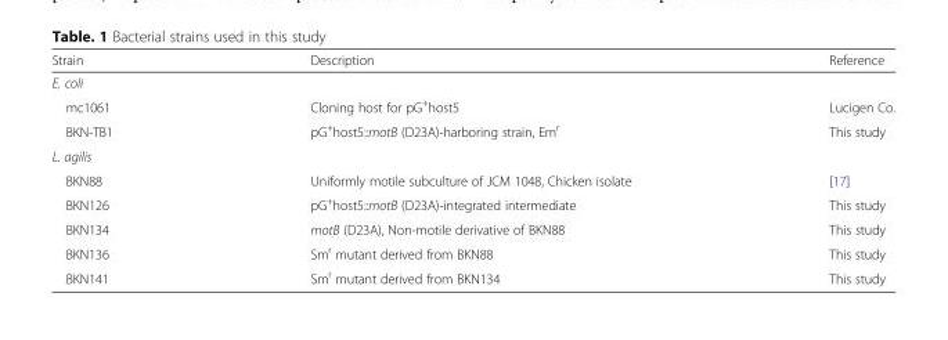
<table><thead><tr><td>Strain</td><td>Description</td><td>Reference</td></tr></thead><tbody><tr><td colspan="3">E. coli</td></tr><tr><td>mc1061</td><td>Cloning host for pG<sup>+</sup>host5</td><td>Lucigen Co.</td></tr><tr><td>BKN-TB1</td><td>pG<sup>+</sup>host5::motB (D23A)-harboring strain, Em<sup>r</sup></td><td>This study</td></tr><tr><td colspan="3">L. agilis</td></tr><tr><td>BKN88</td><td>Uniformly motile subculture of JCM 1048, Chicken isolate</td><td>[17]</td></tr><tr><td>BKN126</td><td>pG<sup>+</sup>host5::motB (D23A)-integrated intermediate</td><td>This study</td></tr><tr><td>BKN134</td><td>motB (D23A), Non-motile derivative of BKN88</td><td>This study</td></tr><tr><td>BKN136</td><td>Sm<sup>r</sup> mutant derived from BKN88</td><td>This study</td></tr><tr><td>BKN141</td><td>Sm<sup>r</sup> mutant derived from BKN134</td><td>This study</td></tr></tbody></table>